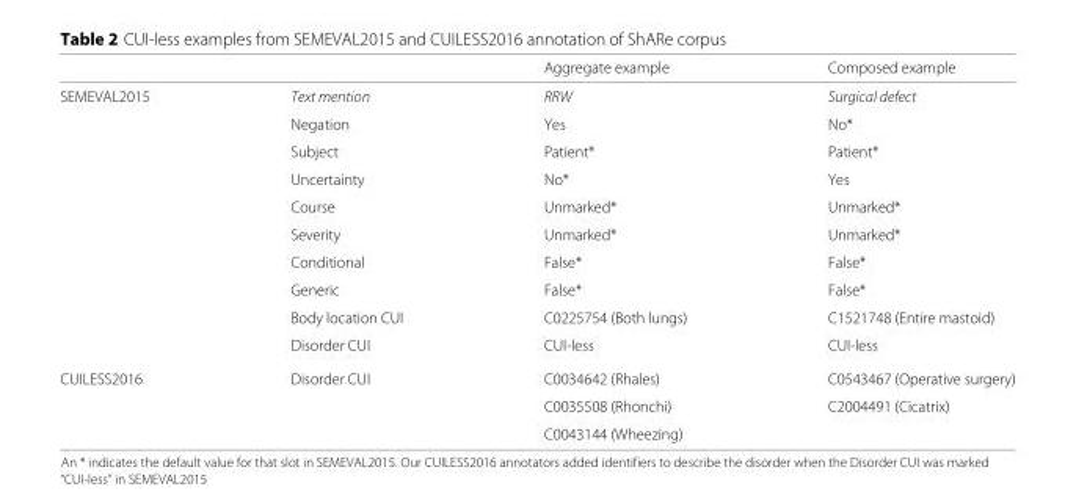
<table><thead><tr><td></td><td></td><td>Aggregate example</td><td>Composed example</td></tr></thead><tbody><tr><td rowspan="10">SEMEVAL2015</td><td>Text mention</td><td>RRW</td><td>Surgical defect</td></tr><tr><td>Negation</td><td>Yes</td><td>No*</td></tr><tr><td>Subject</td><td>Patient*</td><td>Patient*</td></tr><tr><td>Uncertainty</td><td>No*</td><td>Yes</td></tr><tr><td>Course</td><td>Unmarked*</td><td>Unmarked*</td></tr><tr><td>Severity</td><td>Unmarked*</td><td>Unmarked*</td></tr><tr><td>Conditional</td><td>False*</td><td>False*</td></tr><tr><td>Generic</td><td>False*</td><td>False*</td></tr><tr><td>Body location CUI</td><td>C0225754 (Both lungs)</td><td>C1521748 (Entire mastoid)</td></tr><tr><td>Disorder CUI</td><td>CUI-less</td><td>CUI-less</td></tr><tr><td rowspan="3">CUILESS2016</td><td>Disorder CUI</td><td>C0034642 (Rhales)</td><td>C0543467 (Operative surgery)</td></tr><tr><td></td><td>C0035508 (Rhonchi)</td><td>C2004491 (Cicatrix)</td></tr><tr><td></td><td>C0043144 (Wheezing)</td><td></td></tr></tbody></table>